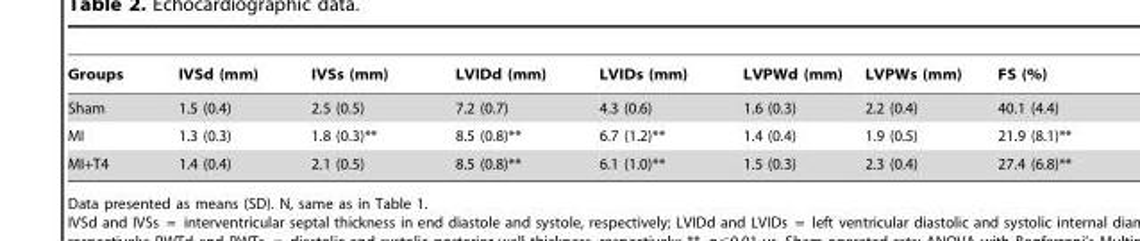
<table><thead><tr><td>Groups</td><td>IVSd (mm)</td><td>IVSs (mm)</td><td>LVIDd (mm)</td><td>LVIDs (mm)</td><td>LVPWd (mm)</td><td>LVPWs (mm)</td><td>FS (%)</td></tr></thead><tbody><tr><td>Sham</td><td>1.5 (0.4)</td><td>2.5 (0.5)</td><td>7.2 (0.7)</td><td>4.3 (0.6)</td><td>1.6 (0.3)</td><td>2.2 (0.4)</td><td>40.1 (4.4)</td></tr><tr><td>MI</td><td>1.3 (0.3)</td><td>1.8 (0.3)**</td><td>8.5 (0.8)**</td><td>6.7 (1.2)**</td><td>1.4 (0.4)</td><td>1.9 (0.5)</td><td>21.9 (8.1)**</td></tr><tr><td>MI+T4</td><td>1.4 (0.4)</td><td>2.1 (0.5)</td><td>8.5 (0.8)**</td><td>6.1 (1.0)**</td><td>1.5 (0.3)</td><td>2.3 (0.4)</td><td>27.4 (6.8)**</td></tr></tbody></table>